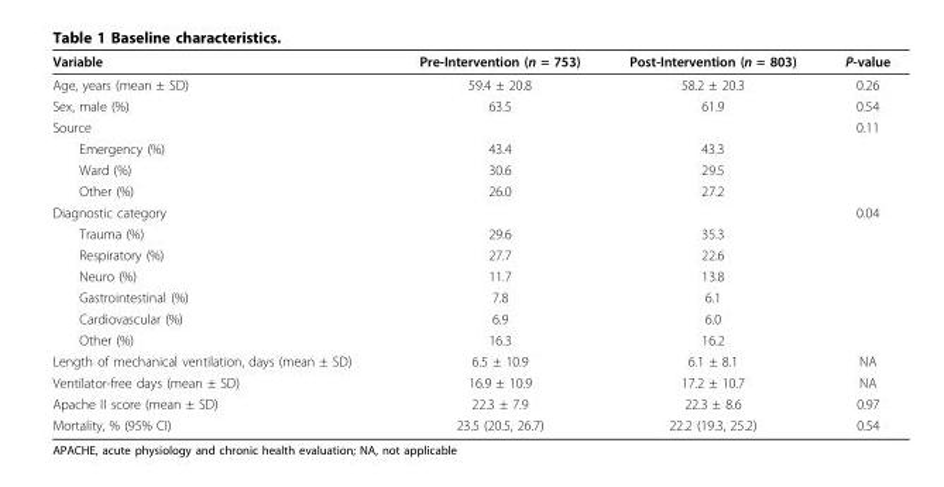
<table><thead><tr><td>Variable</td><td>Pre-Intervention (n = 753)</td><td>Post-Intervention (n = 803)</td><td>P-value</td></tr></thead><tbody><tr><td>Age, years (mean ± SD)</td><td>59.4 ± 20.8</td><td>58.2 ± 20.3</td><td>0.26</td></tr><tr><td>Sex, male (%)</td><td>63.5</td><td>61.9</td><td>0.54</td></tr><tr><td>Source</td><td></td><td></td><td>0.11</td></tr><tr><td>Emergency (%)</td><td>43.4</td><td>43.3</td><td></td></tr><tr><td>Ward (%)</td><td>30.6</td><td>29.5</td><td></td></tr><tr><td>Other (%)</td><td>26.0</td><td>27.2</td><td></td></tr><tr><td>Diagnostic category</td><td></td><td></td><td>0.04</td></tr><tr><td>Trauma (%)</td><td>29.6</td><td>35.3</td><td></td></tr><tr><td>Respiratory (%)</td><td>27.7</td><td>22.6</td><td></td></tr><tr><td>Neuro (%)</td><td>11.7</td><td>13.8</td><td></td></tr><tr><td>Gastrointestinal (%)</td><td>7.8</td><td>6.1</td><td></td></tr><tr><td>Cardiovascular (%)</td><td>6.9</td><td>6.0</td><td></td></tr><tr><td>Other (%)</td><td>16.3</td><td>16.2</td><td></td></tr><tr><td>Length of mechanical ventilation, days (mean ± SD)</td><td>6.5 ± 10.9</td><td>6.1 ± 8.1</td><td>NA</td></tr><tr><td>Ventilator-free days (mean ± SD)</td><td>16.9 ± 10.9</td><td>17.2 ± 10.7</td><td>NA</td></tr><tr><td>Apache II score (mean ± SD)</td><td>22.3 ± 7.9</td><td>22.3 ± 8.6</td><td>0.97</td></tr><tr><td>Mortality, % (95% CI)</td><td>23.5 (20.5, 26.7)</td><td>22.2 (19.3, 25.2)</td><td>0.54</td></tr></tbody></table>